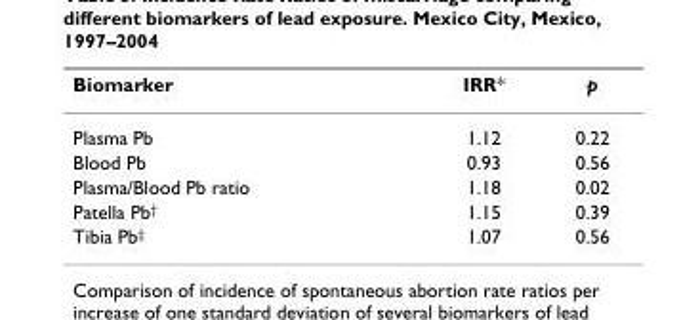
<table><thead><tr><td>Biomarker</td><td>IRR*</td><td>p</td></tr></thead><tbody><tr><td>Plasma Pb</td><td>1.12</td><td>0.22</td></tr><tr><td>Blood Pb</td><td>0.93</td><td>0.56</td></tr><tr><td>Plasma/Blood Pb ratio</td><td>1.18</td><td>0.02</td></tr><tr><td>Patella Pb<sup>†</sup></td><td>1.15</td><td>0.39</td></tr><tr><td>Tibia Pb<sup>‡</sup></td><td>1.07</td><td>0.56</td></tr></tbody></table>